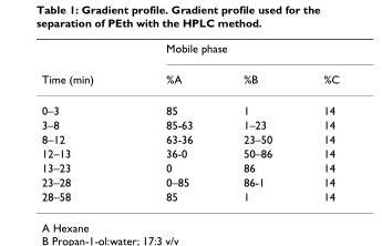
<table><thead><tr><td rowspan="2">Time (min)</td><td colspan="3">Mobile phase</td></tr><tr><td>%A</td><td>%B</td><td>%C</td></tr></thead><tbody><tr><td>0–3</td><td>85</td><td>1</td><td>14</td></tr><tr><td>3–8</td><td>85-63</td><td>1–23</td><td>14</td></tr><tr><td>8–12</td><td>63-36</td><td>23–50</td><td>14</td></tr><tr><td>12–13</td><td>36-0</td><td>50–86</td><td>14</td></tr><tr><td>13–23</td><td>0</td><td>86</td><td>14</td></tr><tr><td>23–28</td><td>0–85</td><td>86-1</td><td>14</td></tr><tr><td>28–58</td><td>85</td><td>1</td><td>14</td></tr></tbody></table>